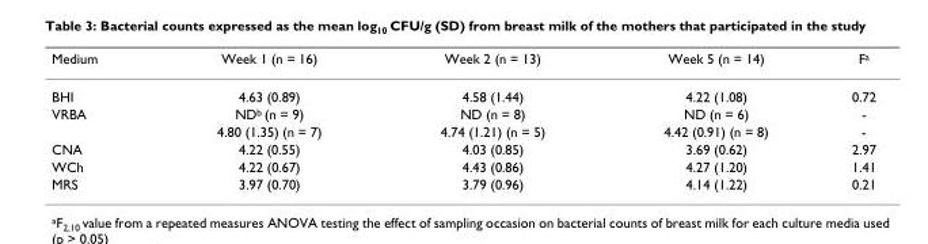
<table><thead><tr><td>Medium</td><td>Week 1 (n = 16)</td><td>Week 2 (n = 13)</td><td>Week 5 (n = 14)</td><td>F<sup>a</sup></td></tr></thead><tbody><tr><td>BHI</td><td>4.63 (0.89)</td><td>4.58 (1.44)</td><td>4.22 (1.08)</td><td>0.72</td></tr><tr><td rowspan="2">VRBA</td><td>ND<sup>b</sup> (n = 9)</td><td>ND (n = 8)</td><td>ND (n = 6)</td><td>-</td></tr><tr><td>4.80 (1.35) (n = 7)</td><td>4.74 (1.21) (n = 5)</td><td>4.42 (0.91) (n = 8)</td><td>-</td></tr><tr><td>CNA</td><td>4.22 (0.55)</td><td>4.03 (0.85)</td><td>3.69 (0.62)</td><td>2.97</td></tr><tr><td>WCh</td><td>4.22 (0.67)</td><td>4.43 (0.86)</td><td>4.27 (1.20)</td><td>1.41</td></tr><tr><td>MRS</td><td>3.97 (0.70)</td><td>3.79 (0.96)</td><td>4.14 (1.22)</td><td>0.21</td></tr></tbody></table>